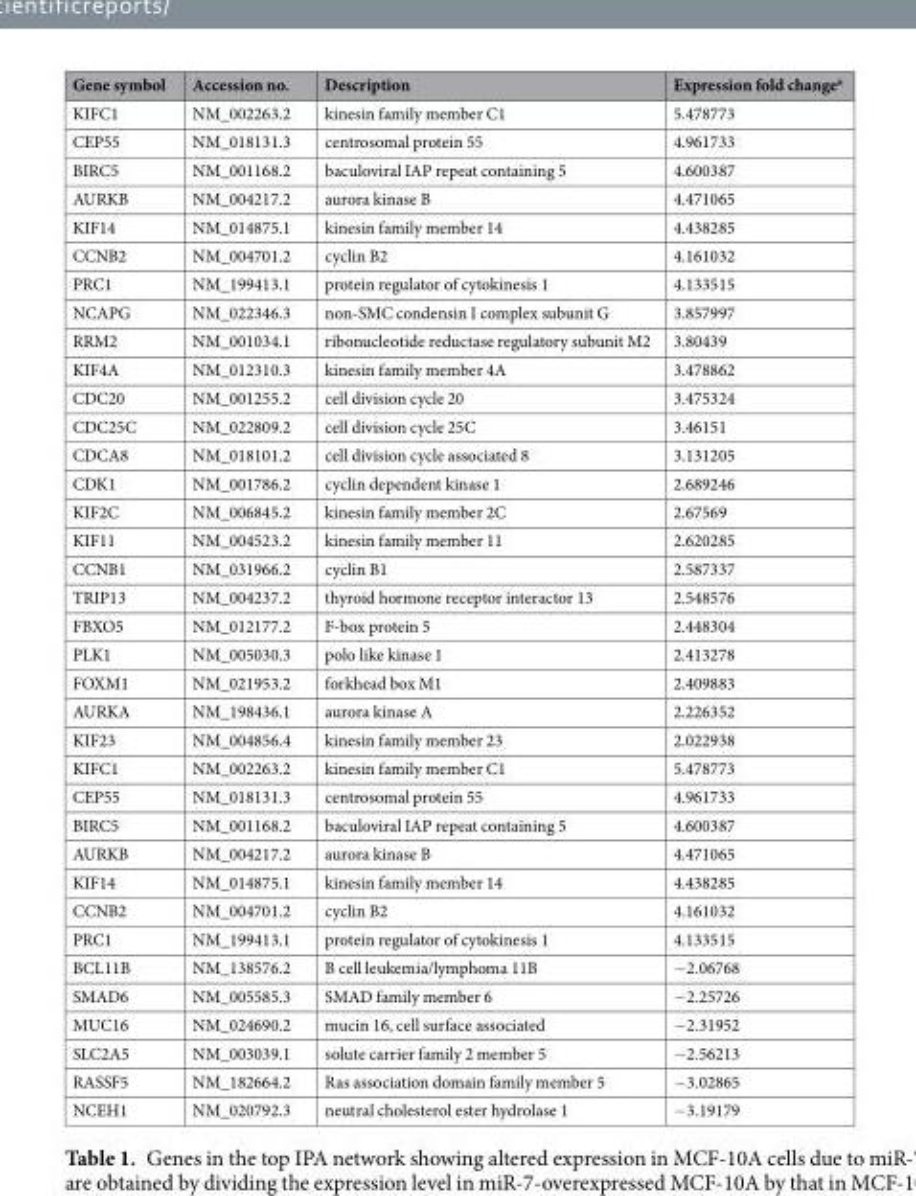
<table><thead><tr><td>Gene symbol</td><td>Accession no.</td><td>Description</td><td>Expression fold change<sup>a</sup></td></tr></thead><tbody><tr><td>KIFC1</td><td>NM_002263.2</td><td>kinesin family member C1</td><td>5.478773</td></tr><tr><td>CEP55</td><td>NM_018131.3</td><td>centrosomal protein 55</td><td>4.961733</td></tr><tr><td>BIRC5</td><td>NM_001168.2</td><td>baculoviral IAP repeat containing 5</td><td>4.600387</td></tr><tr><td>AURKB</td><td>NM_004217.2</td><td>aurora kinase B</td><td>4.471065</td></tr><tr><td>KIF14</td><td>NM_014875.1</td><td>kinesin family member 14</td><td>4.438285</td></tr><tr><td>CCNB2</td><td>NM_004701.2</td><td>cyclin B2</td><td>4.161032</td></tr><tr><td>PRC1</td><td>NM_199413.1</td><td>protein regulator of cytokinesis 1</td><td>4.133515</td></tr><tr><td>NCAPG</td><td>NM_022346.3</td><td>non-SMC condensin I complex subunit G</td><td>3.857997</td></tr><tr><td>RRM2</td><td>NM_001034.1</td><td>ribonucleotide reductase regulatory subunit M2</td><td>3.80439</td></tr><tr><td>KIF4A</td><td>NM_012310.3</td><td>kinesin family member 4A</td><td>3.478862</td></tr><tr><td>CDC20</td><td>NM_001255.2</td><td>cell division cycle 20</td><td>3.475324</td></tr><tr><td>CDC25C</td><td>NM_022809.2</td><td>cell division cycle 25C</td><td>3.46151</td></tr><tr><td>CDCA8</td><td>NM_018101.2</td><td>cell division cycle associated 8</td><td>3.131205</td></tr><tr><td>CDK1</td><td>NM_001786.2</td><td>cyclin dependent kinase 1</td><td>2.689246</td></tr><tr><td>KIF2C</td><td>NM_006845.2</td><td>kinesin family member 2C</td><td>2.67569</td></tr><tr><td>KIF11</td><td>NM_004523.2</td><td>kinesin family member 11</td><td>2.620285</td></tr><tr><td>CCNB1</td><td>NM_031966.2</td><td>cyclin B1</td><td>2.587337</td></tr><tr><td>TRIP13</td><td>NM_004237.2</td><td>thyroid hormone receptor interactor 13</td><td>2.548576</td></tr><tr><td>FBXO5</td><td>NM_012177.2</td><td>F-box protein 5</td><td>2.448304</td></tr><tr><td>PLK1</td><td>NM_005030.3</td><td>polo like kinase 1</td><td>2.413278</td></tr><tr><td>FOXM1</td><td>NM_021953.2</td><td>forkhead box M1</td><td>2.409883</td></tr><tr><td>AURKA</td><td>NM_198436.1</td><td>aurora kinase A</td><td>2.226352</td></tr><tr><td>KIF23</td><td>NM_004856.4</td><td>kinesin family member 23</td><td>2.022938</td></tr><tr><td>KIFC1</td><td>NM_002263.2</td><td>kinesin family member C1</td><td>5.478773</td></tr><tr><td>CEP55</td><td>NM_018131.3</td><td>centrosomal protein 55</td><td>4.961733</td></tr><tr><td>BIRC5</td><td>NM_001168.2</td><td>baculoviral IAP repeat containing 5</td><td>4.600387</td></tr><tr><td>AURKB</td><td>NM_004217.2</td><td>aurora kinase B</td><td>4.471065</td></tr><tr><td>KIF14</td><td>NM_014875.1</td><td>kinesin family member 14</td><td>4.438285</td></tr><tr><td>CCNB2</td><td>NM_004701.2</td><td>cyclin B2</td><td>4.161032</td></tr><tr><td>PRC1</td><td>NM_199413.1</td><td>protein regulator of cytokinesis 1</td><td>4.133515</td></tr><tr><td>BCL11B</td><td>NM_138576.2</td><td>B cell leukemia/lymphoma 11B</td><td>−2.06768</td></tr><tr><td>SMAD6</td><td>NM_005585.3</td><td>SMAD family member 6</td><td>−2.25726</td></tr><tr><td>MUC16</td><td>NM_024690.2</td><td>mucin 16, cell surface associated</td><td>−2.31952</td></tr><tr><td>SLC2A5</td><td>NM_003039.1</td><td>solute carrier family 2 member 5</td><td>−2.56213</td></tr><tr><td>RASSF5</td><td>NM_182664.2</td><td>Ras association domain family member 5</td><td>−3.02865</td></tr><tr><td>NCEH1</td><td>NM_020792.3</td><td>neutral cholesterol ester hydrolase 1</td><td>−3.19179</td></tr></tbody></table>